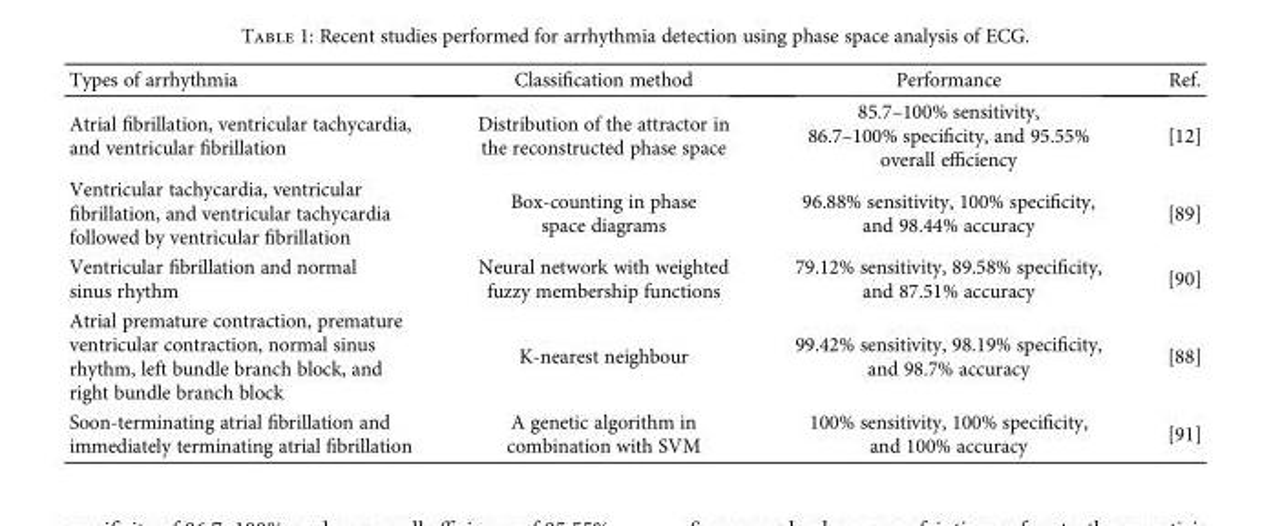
<table><thead><tr><td>Types of arrhythmia</td><td>Classification method</td><td>Performance</td><td>Ref.</td></tr></thead><tbody><tr><td>Atrial fibrillation, ventricular tachycardia, and ventricular fibrillation</td><td>Distribution of the attractor in the reconstructed phase space</td><td>85.7–100% sensitivity, 86.7–100% specificity, and 95.55% overall efficiency</td><td>[12]</td></tr><tr><td>Ventricular tachycardia, ventricular fibrillation, and ventricular tachycardia followed by ventricular fibrillation</td><td>Box-counting in phase space diagrams</td><td>96.88% sensitivity, 100% specificity, and 98.44% accuracy</td><td>[89]</td></tr><tr><td>Ventricular fibrillation and normal sinus rhythm</td><td>Neural network with weighted fuzzy membership functions</td><td>79.12% sensitivity, 89.58% specificity, and 87.51% accuracy</td><td>[90]</td></tr><tr><td>Atrial premature contraction, premature ventricular contraction, normal sinus rhythm, left bundle branch block, and right bundle branch block</td><td>K-nearest neighbour</td><td>99.42% sensitivity, 98.19% specificity, and 98.7% accuracy</td><td>[88]</td></tr><tr><td>Soon-terminating atrial fibrillation and immediately terminating atrial fibrillation</td><td>A genetic algorithm in combination with SVM</td><td>100% sensitivity, 100% specificity, and 100% accuracy</td><td>[91]</td></tr></tbody></table>